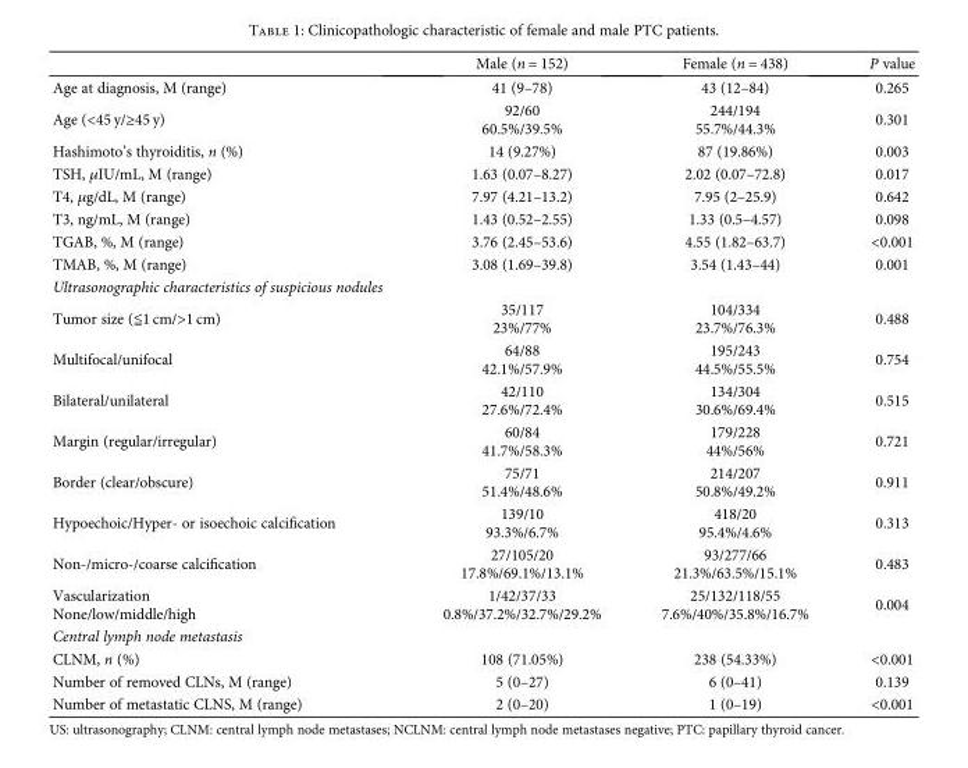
<table><thead><tr><td></td><td>Male (n = 152)</td><td>Female (n = 438)</td><td>P value</td></tr></thead><tbody><tr><td>Age at diagnosis, M (range)</td><td>41 (9–78)</td><td>43 (12–84)</td><td>0.265</td></tr><tr><td>Age (&lt;45 y/≥45 y)</td><td>92/60 60.5%/39.5%</td><td>244/194 55.7%/44.3%</td><td>0.301</td></tr><tr><td>Hashimoto’s thyroiditis, n (%)</td><td>14 (9.27%)</td><td>87 (19.86%)</td><td>0.003</td></tr><tr><td>TSH, μIU/mL, M (range)</td><td>1.63 (0.07–8.27)</td><td>2.02 (0.07–72.8)</td><td>0.017</td></tr><tr><td>T4, μg/dL, M (range)</td><td>7.97 (4.21–13.2)</td><td>7.95 (2–25.9)</td><td>0.642</td></tr><tr><td>T3, ng/mL, M (range)</td><td>1.43 (0.52–2.55)</td><td>1.33 (0.5–4.57)</td><td>0.098</td></tr><tr><td>TGAB, %, M (range)</td><td>3.76 (2.45–53.6)</td><td>4.55 (1.82–63.7)</td><td>&lt;0.001</td></tr><tr><td>TMAB, %, M (range)</td><td>3.08 (1.69–39.8)</td><td>3.54 (1.43–44)</td><td>0.001</td></tr><tr><td colspan="4">Ultrasonographic characteristics of suspicious nodules</td></tr><tr><td>Tumor size (≦1 cm/&gt;1 cm)</td><td>35/117 23%/77%</td><td>104/334 23.7%/76.3%</td><td>0.488</td></tr><tr><td>Multifocal/unifocal</td><td>64/88 42.1%/57.9%</td><td>195/243 44.5%/55.5%</td><td>0.754</td></tr><tr><td>Bilateral/unilateral</td><td>42/110 27.6%/72.4%</td><td>134/304 30.6%/69.4%</td><td>0.515</td></tr><tr><td>Margin (regular/irregular)</td><td>60/84 41.7%/58.3%</td><td>179/228 44%/56%</td><td>0.721</td></tr><tr><td>Border (clear/obscure)</td><td>75/71 51.4%/48.6%</td><td>214/207 50.8%/49.2%</td><td>0.911</td></tr><tr><td>Hypoechoic/Hyper- or isoechoic calcification</td><td>139/10 93.3%/6.7%</td><td>418/20 95.4%/4.6%</td><td>0.313</td></tr><tr><td>Non-/micro-/coarse calcification</td><td>27/105/20 17.8%/69.1%/13.1%</td><td>93/277/66 21.3%/63.5%/15.1%</td><td>0.483</td></tr><tr><td>Vascularization None/low/middle/high</td><td>1/42/37/33 0.8%/37.2%/32.7%/29.2%</td><td>25/132/118/55 7.6%/40%/35.8%/16.7%</td><td>0.004</td></tr><tr><td colspan="4">Central lymph node metastasis</td></tr><tr><td>CLNM, n (%)</td><td>108 (71.05%)</td><td>238 (54.33%)</td><td>&lt;0.001</td></tr><tr><td>Number of removed CLNs, M (range)</td><td>5 (0–27)</td><td>6 (0–41)</td><td>0.139</td></tr><tr><td>Number of metastatic CLNS, M (range)</td><td>2 (0–20)</td><td>1 (0–19)</td><td>&lt;0.001</td></tr></tbody></table>